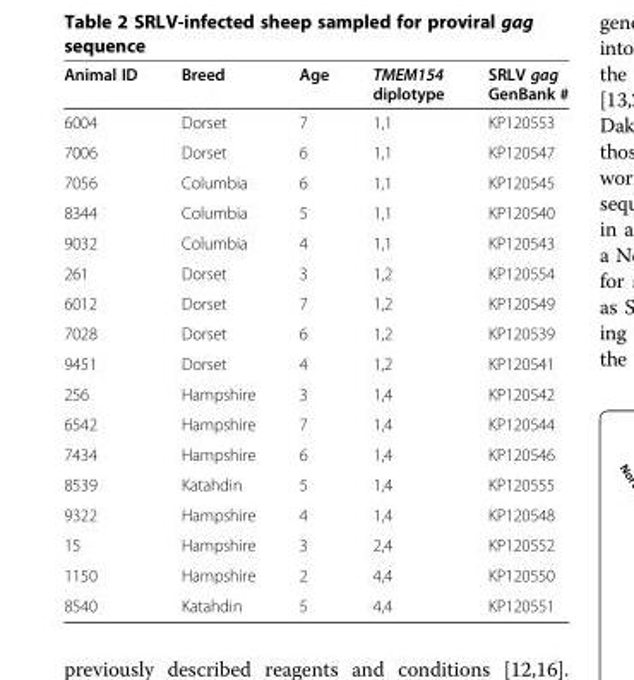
<table><thead><tr><td>Animal ID</td><td>Breed</td><td>Age</td><td>TMEM154 diplotype</td><td>SRLV gag GenBank #</td></tr></thead><tbody><tr><td>6004</td><td>Dorset</td><td>7</td><td>1,1</td><td>KP120553</td></tr><tr><td>7006</td><td>Dorset</td><td>6</td><td>1,1</td><td>KP120547</td></tr><tr><td>7056</td><td>Columbia</td><td>6</td><td>1,1</td><td>KP120545</td></tr><tr><td>8344</td><td>Columbia</td><td>5</td><td>1,1</td><td>KP120540</td></tr><tr><td>9032</td><td>Columbia</td><td>4</td><td>1,1</td><td>KP120543</td></tr><tr><td>261</td><td>Dorset</td><td>3</td><td>1,2</td><td>KP120554</td></tr><tr><td>6012</td><td>Dorset</td><td>7</td><td>1,2</td><td>KP120549</td></tr><tr><td>7028</td><td>Dorset</td><td>6</td><td>1,2</td><td>KP120539</td></tr><tr><td>9451</td><td>Dorset</td><td>4</td><td>1,2</td><td>KP120541</td></tr><tr><td>256</td><td>Hampshire</td><td>3</td><td>1,4</td><td>KP120542</td></tr><tr><td>6542</td><td>Hampshire</td><td>7</td><td>1,4</td><td>KP120544</td></tr><tr><td>7434</td><td>Hampshire</td><td>6</td><td>1,4</td><td>KP120546</td></tr><tr><td>8539</td><td>Katahdin</td><td>5</td><td>1,4</td><td>KP120555</td></tr><tr><td>9322</td><td>Hampshire</td><td>4</td><td>1,4</td><td>KP120548</td></tr><tr><td>15</td><td>Hampshire</td><td>3</td><td>2,4</td><td>KP120552</td></tr><tr><td>1150</td><td>Hampshire</td><td>2</td><td>4,4</td><td>KP120550</td></tr><tr><td>8540</td><td>Katahdin</td><td>5</td><td>4,4</td><td>KP120551</td></tr></tbody></table>